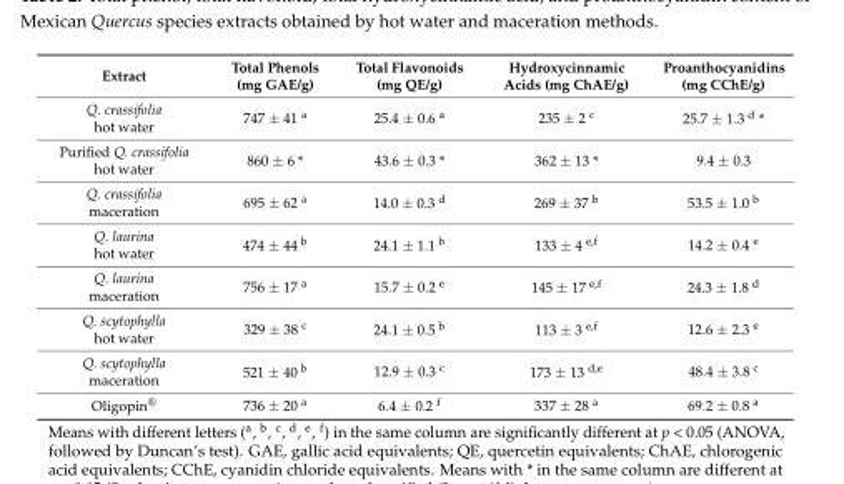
<table><thead><tr><td>Extract</td><td>Total Phenols (mg GAE/g)</td><td>Total Flavonoids (mg QE/g)</td><td>Hydroxycinnamic Acids (mg ChAE/g)</td><td>Proanthocyanidins (mg CChE/g)</td></tr></thead><tbody><tr><td>Q. crassifolia hot water</td><td>747 ± 41 <sup>a</sup></td><td>25.4 ± 0.6 <sup>a</sup></td><td>235 ± 2 <sup>c</sup></td><td>25.7 ± 1.3 <sup>d</sup> *</td></tr><tr><td>Purified Q. crassifolia hot water</td><td>860 ± 6 *</td><td>43.6 ± 0.3 *</td><td>362 ± 13 *</td><td>9.4 ± 0.3</td></tr><tr><td>Q. crassifolia maceration</td><td>695 ± 62 <sup>a</sup></td><td>14.0 ± 0.3 <sup>d</sup></td><td>269 ± 37 <sup>b</sup></td><td>53.5 ± 1.0 <sup>b</sup></td></tr><tr><td>Q. laurina hot water</td><td>474 ± 44 <sup>b</sup></td><td>24.1 ± 1.1 <sup>b</sup></td><td>133 ± 4 <sup>e,f</sup></td><td>14.2 ± 0.4 <sup>e</sup></td></tr><tr><td>Q. laurina maceration</td><td>756 ± 17 <sup>a</sup></td><td>15.7 ± 0.2 <sup>e</sup></td><td>145 ± 17 <sup>e,f</sup></td><td>24.3 ± 1.8 <sup>d</sup></td></tr><tr><td>Q. scytophylla hot water</td><td>329 ± 38 <sup>c</sup></td><td>24.1 ± 0.5 <sup>b</sup></td><td>113 ± 3 <sup>e,f</sup></td><td>12.6 ± 2.3 <sup>e</sup></td></tr><tr><td>Q. scytophylla maceration</td><td>521 ± 40 <sup>b</sup></td><td>12.9 ± 0.3 <sup>c</sup></td><td>173 ± 13 <sup>d,e</sup></td><td>48.4 ± 3.8 <sup>c</sup></td></tr><tr><td>Oligopin<sup>®</sup></td><td>736 ± 20 <sup>a</sup></td><td>6.4 ± 0.2 <sup>f</sup></td><td>337 ± 28 <sup>a</sup></td><td>69.2 ± 0.8 <sup>a</sup></td></tr></tbody></table>